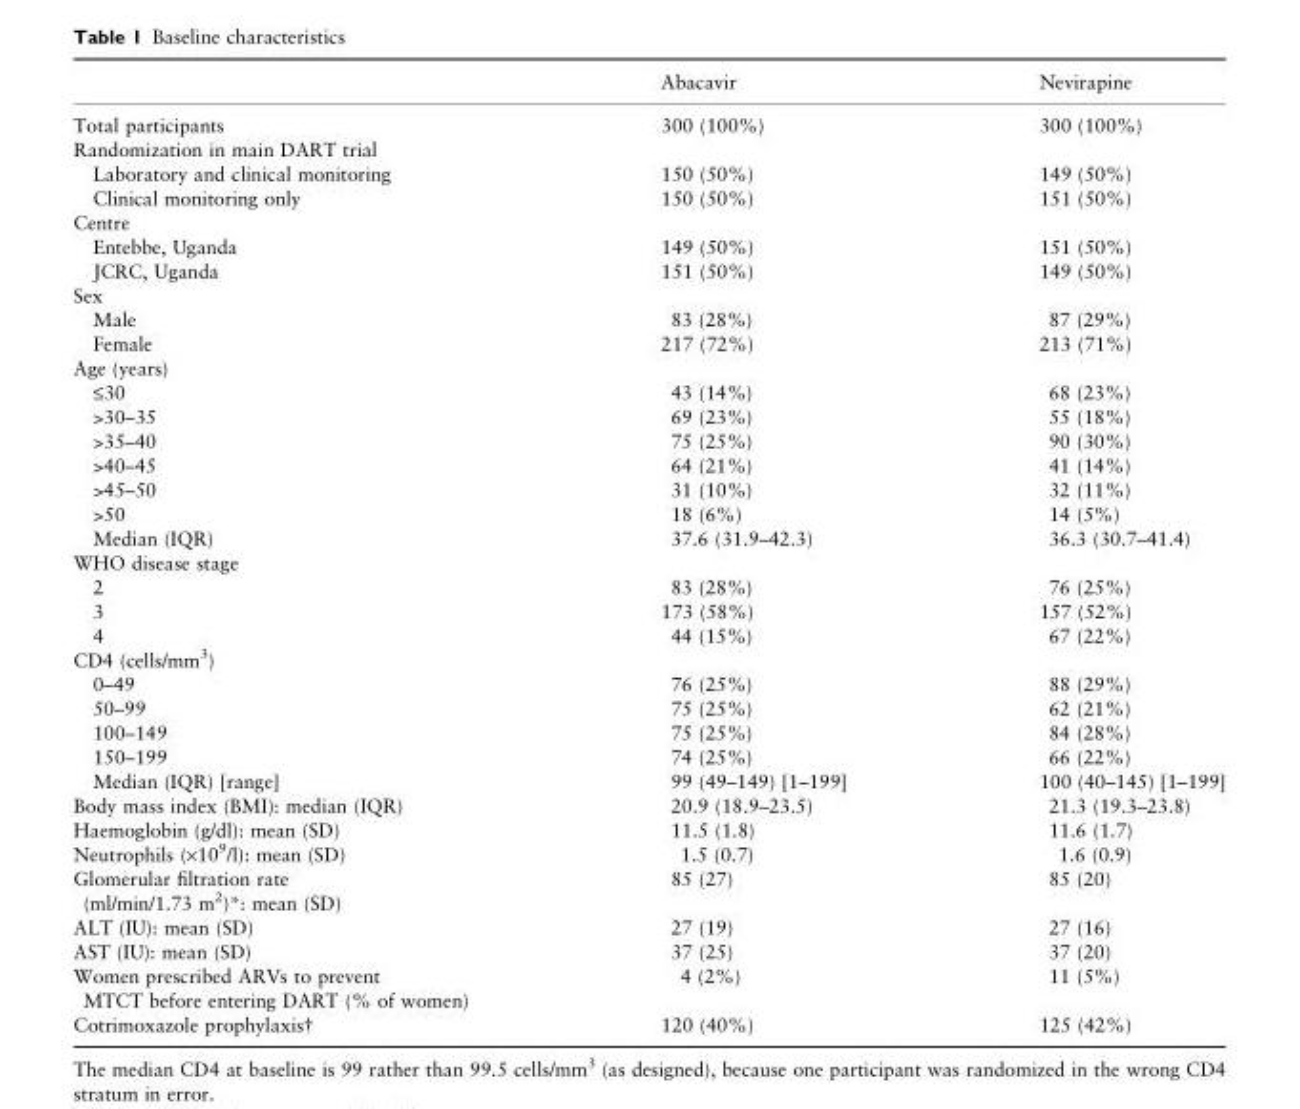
<table><thead><tr><td></td><td>Abacavir</td><td>Nevirapine</td></tr></thead><tbody><tr><td>Total participants</td><td>300 (100%)</td><td>300 (100%)</td></tr><tr><td colspan="3">Randomization in main DART trial</td></tr><tr><td>Laboratory and clinical monitoring</td><td>150 (50%)</td><td>149 (50%)</td></tr><tr><td>Clinical monitoring only</td><td>150 (50%)</td><td>151 (50%)</td></tr><tr><td colspan="3">Centre</td></tr><tr><td>Entebbe, Uganda</td><td>149 (50%)</td><td>151 (50%)</td></tr><tr><td>JCRC, Uganda</td><td>151 (50%)</td><td>149 (50%)</td></tr><tr><td colspan="3">Sex</td></tr><tr><td>Male</td><td>83 (28%)</td><td>87 (29%)</td></tr><tr><td>Female</td><td>217 (72%)</td><td>213 (71%)</td></tr><tr><td colspan="3">Age (years)</td></tr><tr><td>≤30</td><td>43 (14%)</td><td>68 (23%)</td></tr><tr><td>&gt;30–35</td><td>69 (23%)</td><td>55 (18%)</td></tr><tr><td>&gt;35–40</td><td>75 (25%)</td><td>90 (30%)</td></tr><tr><td>&gt;40–45</td><td>64 (21%)</td><td>41 (14%)</td></tr><tr><td>&gt;45–50</td><td>31 (10%)</td><td>32 (11%)</td></tr><tr><td>&gt;50</td><td>18 (6%)</td><td>14 (5%)</td></tr><tr><td>Median (IQR)</td><td>37.6 (31.9–42.3)</td><td>36.3 (30.7–41.4)</td></tr><tr><td colspan="3">WHO disease stage</td></tr><tr><td>2</td><td>83 (28%)</td><td>76 (25%)</td></tr><tr><td>3</td><td>173 (58%)</td><td>157 (52%)</td></tr><tr><td>4</td><td>44 (15%)</td><td>67 (22%)</td></tr><tr><td colspan="3">CD4 (cells/mm<sup>3</sup>)</td></tr><tr><td>0–49</td><td>76 (25%)</td><td>88 (29%)</td></tr><tr><td>50–99</td><td>75 (25%)</td><td>62 (21%)</td></tr><tr><td>100–149</td><td>75 (25%)</td><td>84 (28%)</td></tr><tr><td>150–199</td><td>74 (25%)</td><td>66 (22%)</td></tr><tr><td>Median (IQR) [range]</td><td>99 (49–149) [1–199]</td><td>100 (40–145) [1–199]</td></tr><tr><td>Body mass index (BMI): median (IQR)</td><td>20.9 (18.9–23.5)</td><td>21.3 (19.3–23.8)</td></tr><tr><td>Haemoglobin (g/dl): mean (SD)</td><td>11.5 (1.8)</td><td>11.6 (1.7)</td></tr><tr><td>Neutrophils (×10<sup>9</sup>/l): mean (SD)</td><td>1.5 (0.7)</td><td>1.6 (0.9)</td></tr><tr><td>Glomerular filtration rate (ml/min/1.73 m<sup>2</sup>)*: mean (SD)</td><td>85 (27)</td><td>85 (20)</td></tr><tr><td>ALT (IU): mean (SD)</td><td>27 (19)</td><td>27 (16)</td></tr><tr><td>AST (IU): mean (SD)</td><td>37 (25)</td><td>37 (20)</td></tr><tr><td>Women prescribed ARVs to prevent MTCT before entering DART (% of women)</td><td>4 (2%)</td><td>11 (5%)</td></tr><tr><td>Cotrimoxazole prophylaxis†</td><td>120 (40%)</td><td>125 (42%)</td></tr></tbody></table>